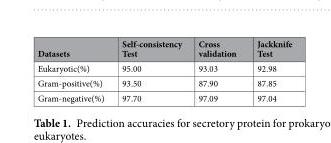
<table><thead><tr><td>Datasets</td><td>Self-consistency Test</td><td>Cross validation</td><td>Jackknife Test</td></tr></thead><tbody><tr><td>Eukaryotic(%)</td><td>95.00</td><td>93.03</td><td>92.98</td></tr><tr><td>Gram-positive(%)</td><td>93.50</td><td>87.90</td><td>87.85</td></tr><tr><td>Gram-negative(%)</td><td>97.70</td><td>97.09</td><td>97.04</td></tr></tbody></table>